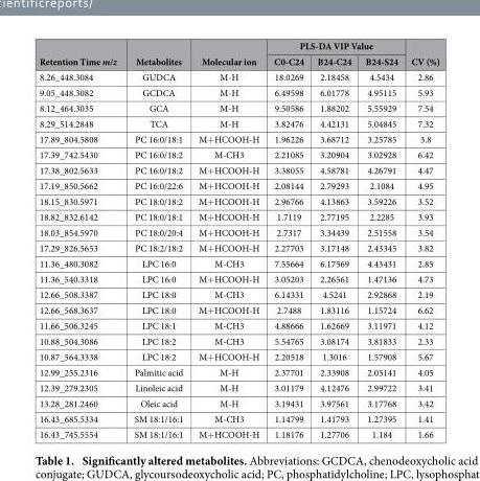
<table><thead><tr><td rowspan="2">Retention Time m/z</td><td rowspan="2">Metabolites</td><td rowspan="2">Molecular ion</td><td colspan="3">PLS-DA VIP Value</td><td rowspan="2">CV (%)</td></tr><tr><td>C0-C24</td><td>B24-C24</td><td>B24-S24</td></tr></thead><tbody><tr><td>8.26_448.3084</td><td>GUDCA</td><td>M-H</td><td>18.0269</td><td>2.18458</td><td>4.5434</td><td>2.86</td></tr><tr><td>9.05_448.3082</td><td>GCDCA</td><td>M-H</td><td>6.49598</td><td>6.01778</td><td>4.95115</td><td>5.93</td></tr><tr><td>8.12_464.3035</td><td>GCA</td><td>M-H</td><td>9.50586</td><td>1.88202</td><td>5.55929</td><td>7.54</td></tr><tr><td>8.29_514.2848</td><td>TCA</td><td>M-H</td><td>3.82476</td><td>4.42131</td><td>5.04845</td><td>7.32</td></tr><tr><td>17.89_804.5808</td><td>PC 16:0/18:1</td><td>M+ HCOOH-H</td><td>1.96226</td><td>3.68712</td><td>3.25785</td><td>3.8</td></tr><tr><td>17.39_742.5430</td><td>PC 16:0/18:2</td><td>M-CH3</td><td>2.21085</td><td>3.20904</td><td>3.02928</td><td>6.42</td></tr><tr><td>17.38_802.5633</td><td>PC 16:0/18:2</td><td>M+ HCOOH-H</td><td>3.38055</td><td>4.58781</td><td>4.26791</td><td>4.47</td></tr><tr><td>17.19_850.5662</td><td>PC 16:0/22:6</td><td>M+ HCOOH-H</td><td>2.08144</td><td>2.79293</td><td>2.1084</td><td>4.95</td></tr><tr><td>18.15_830.5971</td><td>PC 18:0/18:2</td><td>M+ HCOOH-H</td><td>2.96766</td><td>4.13863</td><td>3.59226</td><td>3.52</td></tr><tr><td>18.82_832.6142</td><td>PC 18:0/18:1</td><td>M+ HCOOH-H</td><td>1.7119</td><td>2.77195</td><td>2.2285</td><td>3.93</td></tr><tr><td>18.03_854.5970</td><td>PC 18:0/20:4</td><td>M+ HCOOH-H</td><td>2.7317</td><td>3.34439</td><td>2.51558</td><td>3.54</td></tr><tr><td>17.29_826.5653</td><td>PC 18:2/18:2</td><td>M+ HCOOH-H</td><td>2.27703</td><td>3.17148</td><td>2.43345</td><td>3.82</td></tr><tr><td>11.36_480.3082</td><td>LPC 16:0</td><td>M-CH3</td><td>7.55664</td><td>6.17569</td><td>4.43431</td><td>2.85</td></tr><tr><td>11.36_540.3318</td><td>LPC 16:0</td><td>M+ HCOOH-H</td><td>3.05203</td><td>2.26561</td><td>1.47136</td><td>4.73</td></tr><tr><td>12.66_508.3387</td><td>LPC 18:0</td><td>M-CH3</td><td>6.14331</td><td>4.5241</td><td>2.92868</td><td>2.19</td></tr><tr><td>12.66_568.3637</td><td>LPC 18:0</td><td>M+ HCOOH-H</td><td>2.7488</td><td>1.83116</td><td>1.15724</td><td>6.62</td></tr><tr><td>11.66_506.3245</td><td>LPC 18:1</td><td>M-CH3</td><td>4.88666</td><td>1.62669</td><td>3.11971</td><td>4.12</td></tr><tr><td>10.88_504.3086</td><td>LPC 18:2</td><td>M-CH3</td><td>5.54765</td><td>3.08174</td><td>3.81833</td><td>2.33</td></tr><tr><td>10.87_564.3338</td><td>LPC 18:2</td><td>M+ HCOOH-H</td><td>2.20518</td><td>1.3016</td><td>1.57908</td><td>5.67</td></tr><tr><td>12.99_255.2316</td><td>Palmitic acid</td><td>M-H</td><td>2.37701</td><td>2.33908</td><td>2.05141</td><td>4.05</td></tr><tr><td>12.39_279.2305</td><td>Linoleic acid</td><td>M-H</td><td>3.01179</td><td>4.12476</td><td>2.99722</td><td>3.41</td></tr><tr><td>13.28_281.2460</td><td>Oleic acid</td><td>M-H</td><td>3.19431</td><td>3.97561</td><td>3.17768</td><td>3.42</td></tr><tr><td>16.43_685.5334</td><td>SM 18:1/16:1</td><td>M-CH3</td><td>1.14799</td><td>1.41793</td><td>1.27395</td><td>1.41</td></tr><tr><td>16.43_745.5554</td><td>SM 18:1/16:1</td><td>M+ HCOOH-H</td><td>1.18176</td><td>1.27706</td><td>1.184</td><td>1.66</td></tr></tbody></table>